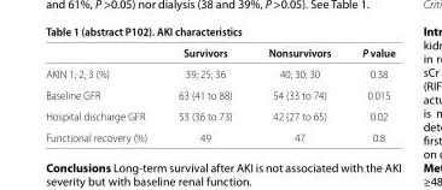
<table><thead><tr><td></td><td>Survivors</td><td>Nonsurvivors</td><td>P value</td></tr></thead><tbody><tr><td>AKIN 1; 2; 3 (%)</td><td>39; 25; 36</td><td>40; 30; 30</td><td>0.38</td></tr><tr><td>Baseline GFR</td><td>63 (41 to 88)</td><td>54 (33 to 74)</td><td>0.015</td></tr><tr><td>Hospital discharge GFR</td><td>53 (36 to 73)</td><td>42 (27 to 65)</td><td>0.02</td></tr><tr><td>Functional recovery (%)</td><td>49</td><td>47</td><td>0.8</td></tr></tbody></table>